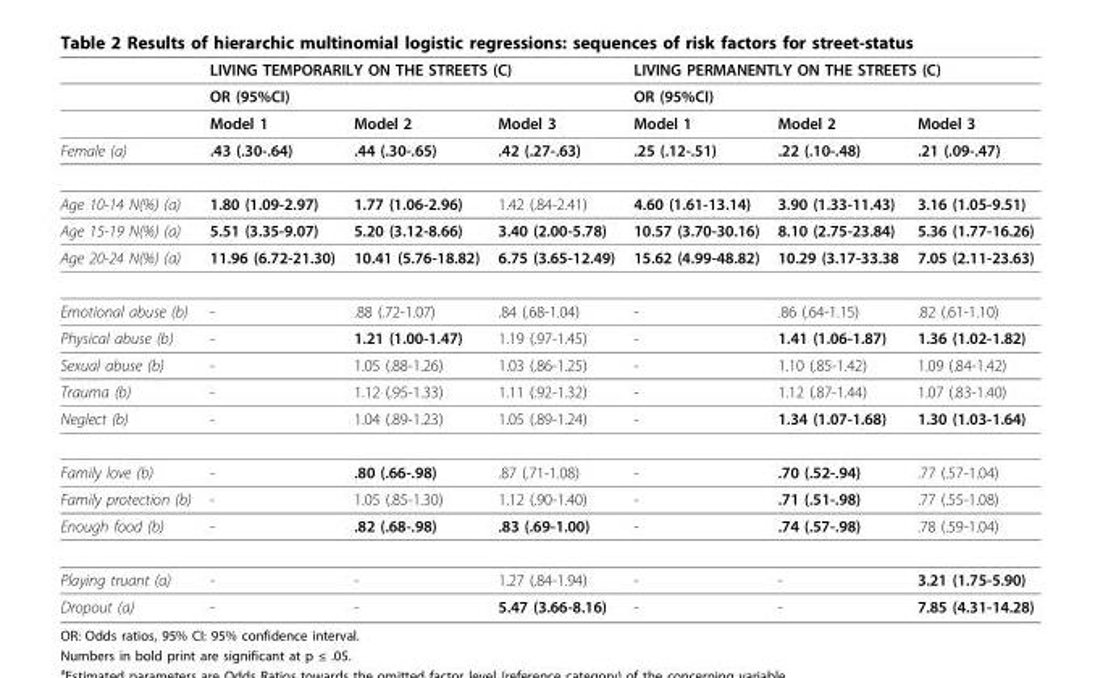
<table><thead><tr><td rowspan="3"></td><td rowspan="2" colspan="3">LIVING TEMPORARILY ON THE STREETS (C) OR (95%CI)</td><td rowspan="2" colspan="3">LIVING PERMANENTLY ON THE STREETS (C) OR (95%CI)</td></tr><tr></tr><tr><td>Model 1</td><td>Model 2</td><td>Model 3</td><td>Model 1</td><td>Model 2</td><td>Model 3</td></tr></thead><tbody><tr><td>Female (a)</td><td>.43 (.30-.64)</td><td>.44 (.30-.65)</td><td>.42 (.27-.63)</td><td>.25 (.12-.51)</td><td>.22 (.10-.48)</td><td>.21 (.09-.47)</td></tr><tr><td>Age 10-14 N(%) (a)</td><td>1.80 (1.09-2.97)</td><td>1.77 (1.06-2.96)</td><td>1.42 (.84-2.41)</td><td>4.60 (1.61-13.14)</td><td>3.90 (1.33-11.43)</td><td>3.16 (1.05-9.51)</td></tr><tr><td>Age 15-19 N(%) (a)</td><td>5.51 (3.35-9.07)</td><td>5.20 (3.12-8.66)</td><td>3.40 (2.00-5.78)</td><td>10.57 (3.70-30.16)</td><td>8.10 (2.75-23.84)</td><td>5.36 (1.77-16.26)</td></tr><tr><td>Age 20-24 N(%) (a)</td><td>11.96 (6.72-21.30)</td><td>10.41 (5.76-18.82)</td><td>6.75 (3.65-12.49)</td><td>15.62 (4.99-48.82)</td><td>10.29 (3.17-33.38</td><td>7.05 (2.11-23.63)</td></tr><tr><td>Emotional abuse (b)</td><td>-</td><td>.88 (.72-1.07)</td><td>.84 (.68-1.04)</td><td>-</td><td>.86 (.64-1.15)</td><td>.82 (.61-1.10)</td></tr><tr><td>Physical abuse (b)</td><td>-</td><td>1.21 (1.00-1.47)</td><td>1.19 (.97-1.45)</td><td>-</td><td>1.41 (1.06-1.87)</td><td>1.36 (1.02-1.82)</td></tr><tr><td>Sexual abuse (b)</td><td>-</td><td>1.05 (.88-1.26)</td><td>1.03 (.86-1.25)</td><td>-</td><td>1.10 (.85-1.42)</td><td>1.09 (.84-1.42)</td></tr><tr><td>Trauma (b)</td><td>-</td><td>1.12 (.95-1.33)</td><td>1.11 (.92-1.32)</td><td>-</td><td>1.12 (.87-1.44)</td><td>1.07 (.83-1.40)</td></tr><tr><td>Neglect (b)</td><td>-</td><td>1.04 (.89-1.23)</td><td>1.05 (.89-1.24)</td><td>-</td><td>1.34 (1.07-1.68)</td><td>1.30 (1.03-1.64)</td></tr><tr><td>Family love (b)</td><td>-</td><td>.80 (.66-.98)</td><td>.87 (.71-1.08)</td><td>-</td><td>.70 (.52-.94)</td><td>.77 (.57-1.04)</td></tr><tr><td>Family protection (b)</td><td>-</td><td>1.05 (.85-1.30)</td><td>1.12 (.90-1.40)</td><td>-</td><td>.71 (.51-.98)</td><td>.77 (.55-1.08)</td></tr><tr><td>Enough food (b)</td><td>-</td><td>.82 (.68-.98)</td><td>.83 (.69-1.00)</td><td>-</td><td>.74 (.57-.98)</td><td>.78 (.59-1.04)</td></tr><tr><td>Playing truant (a)</td><td>-</td><td>-</td><td>1.27 (.84-1.94)</td><td>-</td><td>-</td><td>3.21 (1.75-5.90)</td></tr><tr><td>Dropout (a)</td><td>-</td><td>-</td><td>5.47 (3.66-8.16)</td><td>-</td><td>-</td><td>7.85 (4.31-14.28)</td></tr></tbody></table>